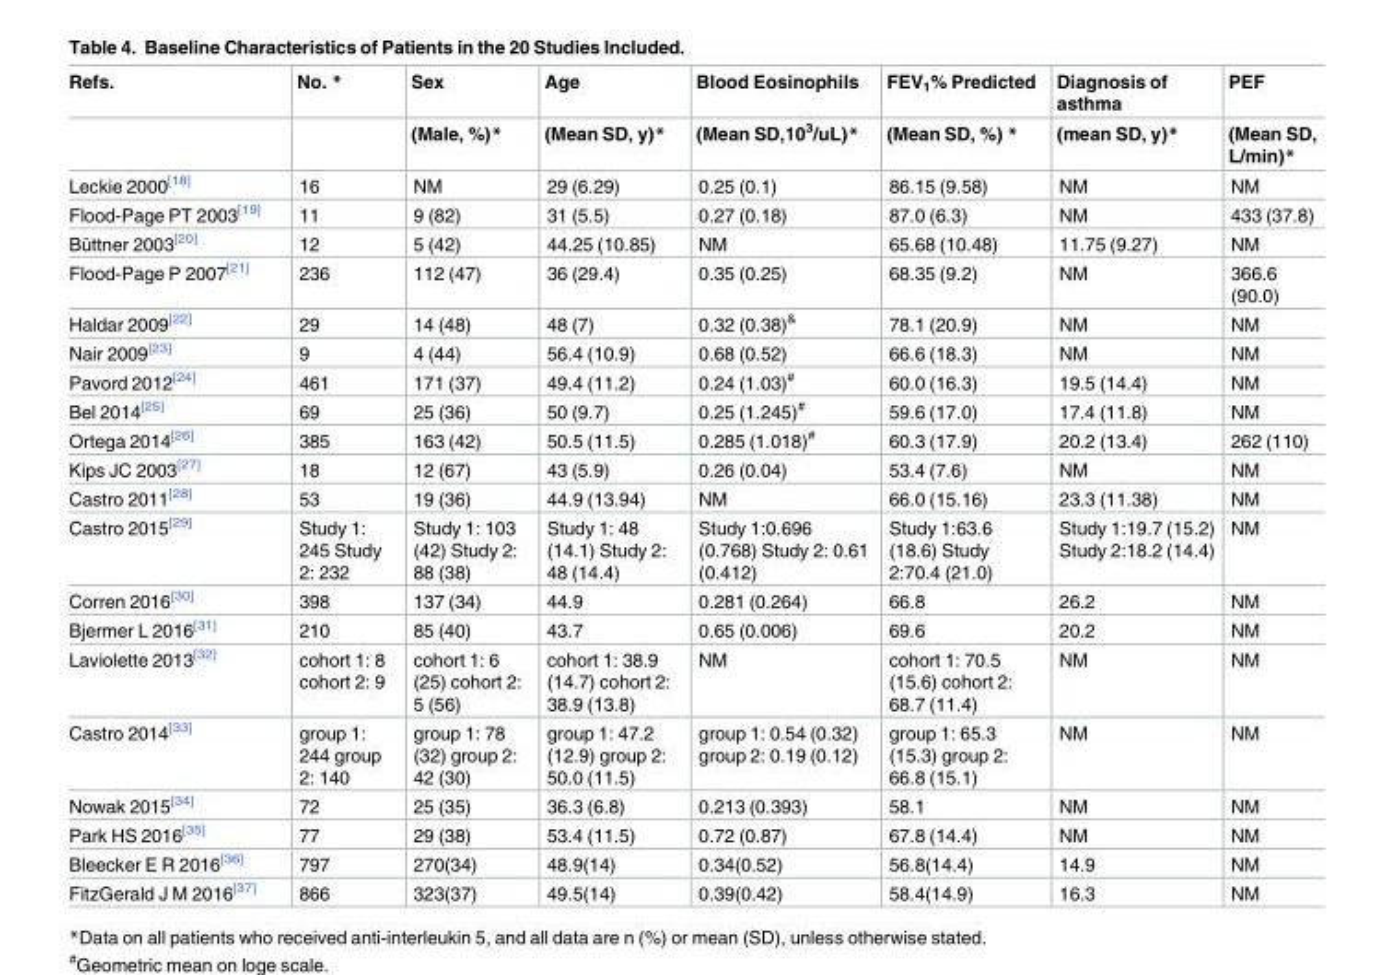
<table><thead><tr><td rowspan="2">Refs.</td><td rowspan="2">No. *</td><td rowspan="2">Sex (Male, %)*</td><td rowspan="2">Age (Mean SD, y)*</td><td rowspan="2">Blood Eosinophils (Mean SD,10<sup>3</sup>/uL)*</td><td rowspan="2">FEV<sub>1</sub>% Predicted (Mean SD, %) *</td><td rowspan="2">Diagnosis of asthma (mean SD, y)*</td><td rowspan="2">PEF (Mean SD, L/min)*</td></tr><tr></tr></thead><tbody><tr><td>Leckie 2000<sup>[18]</sup></td><td>16</td><td>NM</td><td>29 (6.29)</td><td>0.25 (0.1)</td><td>86.15 (9.58)</td><td>NM</td><td>NM</td></tr><tr><td>Flood-Page PT 2003<sup>[19]</sup></td><td>11</td><td>9 (82)</td><td>31 (5.5)</td><td>0.27 (0.18)</td><td>87.0 (6.3)</td><td>NM</td><td>433 (37.8)</td></tr><tr><td>Bu¨ttner 2003[20]</td><td>12</td><td>5 (42)</td><td>44.25 (10.85)</td><td>NM</td><td>65.68 (10.48)</td><td>11.75 (9.27)</td><td>NM</td></tr><tr><td>Flood-Page P 2007<sup>[21]</sup></td><td>236</td><td>112 (47)</td><td>36 (29.4)</td><td>0.35 (0.25)</td><td>68.35 (9.2)</td><td>NM</td><td>366.6 (90.0)</td></tr><tr><td>Haldar 2009<sup>[22]</sup></td><td>29</td><td>14 (48)</td><td>48 (7)</td><td>0.32 (0.38)<sup>&amp;</sup></td><td>78.1 (20.9)</td><td>NM</td><td>NM</td></tr><tr><td>Nair 2009<sup>[23]</sup></td><td>9</td><td>4 (44)</td><td>56.4 (10.9)</td><td>0.68 (0.52)</td><td>66.6 (18.3)</td><td>NM</td><td>NM</td></tr><tr><td>Pavord 2012<sup>[24]</sup></td><td>461</td><td>171 (37)</td><td>49.4 (11.2)</td><td>0.24 (1.03)<sup>#</sup></td><td>60.0 (16.3)</td><td>19.5 (14.4)</td><td>NM</td></tr><tr><td>Bel 2014<sup>[25]</sup></td><td>69</td><td>25 (36)</td><td>50 (9.7)</td><td>0.25 (1.245)<sup>#</sup></td><td>59.6 (17.0)</td><td>17.4 (11.8)</td><td>NM</td></tr><tr><td>Ortega 2014<sup>[26]</sup></td><td>385</td><td>163 (42)</td><td>50.5 (11.5)</td><td>0.285 (1.018)<sup>#</sup></td><td>60.3 (17.9)</td><td>20.2 (13.4)</td><td>262 (110)</td></tr><tr><td>Kips JC 2003<sup>[27]</sup></td><td>18</td><td>12 (67)</td><td>43 (5.9)</td><td>0.26 (0.04)</td><td>53.4 (7.6)</td><td>NM</td><td>NM</td></tr><tr><td>Castro 2011<sup>[28]</sup></td><td>53</td><td>19 (36)</td><td>44.9 (13.94)</td><td>NM</td><td>66.0 (15.16)</td><td>23.3 (11.38)</td><td>NM</td></tr><tr><td>Castro 2015<sup>[29]</sup></td><td>Study 1: 245 Study 2: 232</td><td>Study 1: 103 (42) Study 2: 88 (38)</td><td>Study 1: 48 (14.1) Study 2: 48 (14.4)</td><td>Study 1:0.696 (0.768) Study 2: 0.61 (0.412)</td><td>Study 1:63.6 (18.6) Study 2:70.4 (21.0)</td><td>Study 1:19.7 (15.2) Study 2:18.2 (14.4)</td><td>NM</td></tr><tr><td>Corren 2016<sup>[30]</sup></td><td>398</td><td>137 (34)</td><td>44.9</td><td>0.281 (0.264)</td><td>66.8</td><td>26.2</td><td>NM</td></tr><tr><td>Bjermer L 2016<sup>[31]</sup></td><td>210</td><td>85 (40)</td><td>43.7</td><td>0.65 (0.006)</td><td>69.6</td><td>20.2</td><td>NM</td></tr><tr><td>Laviolette 2013<sup>[32]</sup></td><td>cohort 1: 8 cohort 2: 9</td><td>cohort 1: 6 (25) cohort 2: 5 (56)</td><td>cohort 1: 38.9 (14.7) cohort 2: 38.9 (13.8)</td><td>NM</td><td>cohort 1: 70.5 (15.6) cohort 2: 68.7 (11.4)</td><td>NM</td><td>NM</td></tr><tr><td>Castro 2014<sup>[33]</sup></td><td>group 1: 244 group 2: 140</td><td>group 1: 78 (32) group 2: 42 (30)</td><td>group 1: 47.2 (12.9) group 2: 50.0 (11.5)</td><td>group 1: 0.54 (0.32) group 2: 0.19 (0.12)</td><td>group 1: 65.3 (15.3) group 2: 66.8 (15.1)</td><td>NM</td><td>NM</td></tr><tr><td>Nowak 2015<sup>[34]</sup></td><td>72</td><td>25 (35)</td><td>36.3 (6.8)</td><td>0.213 (0.393)</td><td>58.1</td><td>NM</td><td>NM</td></tr><tr><td>Park HS 2016<sup>[35]</sup></td><td>77</td><td>29 (38)</td><td>53.4 (11.5)</td><td>0.72 (0.87)</td><td>67.8 (14.4)</td><td>NM</td><td>NM</td></tr><tr><td>Bleecker E R 2016<sup>[36]</sup></td><td>797</td><td>270(34)</td><td>48.9(14)</td><td>0.34(0.52)</td><td>56.8(14.4)</td><td>14.9</td><td>NM</td></tr><tr><td>FitzGerald J M 2016<sup>[37]</sup></td><td>866</td><td>323(37)</td><td>49.5(14)</td><td>0.39(0.42)</td><td>58.4(14.9)</td><td>16.3</td><td>NM</td></tr></tbody></table>